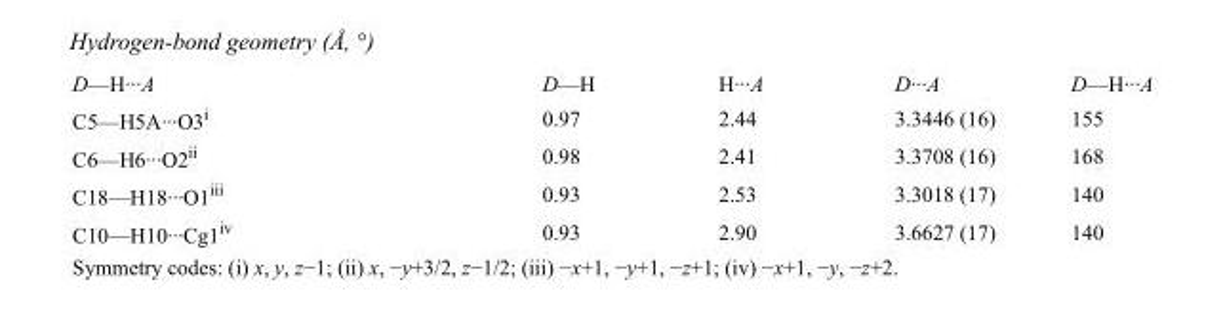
<table><tbody><tr><td>D—H···A</td><td>D—H</td><td>H···A</td><td>D···A</td><td>D—H···A</td></tr><tr><td>C5—H5A···O3<sup>i</sup></td><td>0.97</td><td>2.44</td><td>3.3446 (16)</td><td>155</td></tr><tr><td>C6—H6···O2<sup>ii</sup></td><td>0.98</td><td>2.41</td><td>3.3708 (16)</td><td>168</td></tr><tr><td>C18—H18···O1<sup>iii</sup></td><td>0.93</td><td>2.53</td><td>3.3018 (17)</td><td>140</td></tr><tr><td>C10—H10···Cg1<sup>iv</sup></td><td>0.93</td><td>2.90</td><td>3.6627 (17)</td><td>140</td></tr></tbody></table>